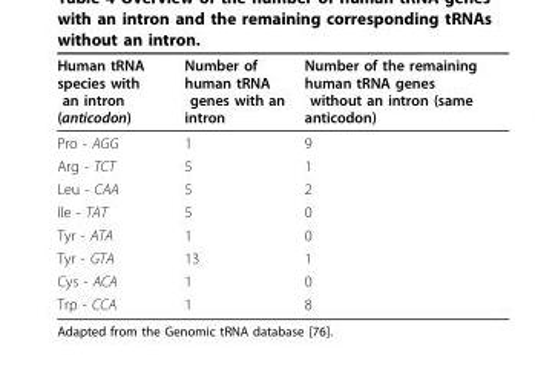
<table><thead><tr><td>Human tRNA species with an intron (anticodon)</td><td>Number of human tRNA genes with an intron</td><td>Number of the remaining human tRNA genes without an intron (same anticodon)</td></tr></thead><tbody><tr><td>Pro - AGG</td><td>1</td><td>9</td></tr><tr><td>Arg - TCT</td><td>5</td><td>1</td></tr><tr><td>Leu - CAA</td><td>5</td><td>2</td></tr><tr><td>Ile - TAT</td><td>5</td><td>0</td></tr><tr><td>Tyr - ATA</td><td>1</td><td>0</td></tr><tr><td>Tyr - GTA</td><td>13</td><td>1</td></tr><tr><td>Cys - ACA</td><td>1</td><td>0</td></tr><tr><td>Trp - CCA</td><td>1</td><td>8</td></tr></tbody></table>